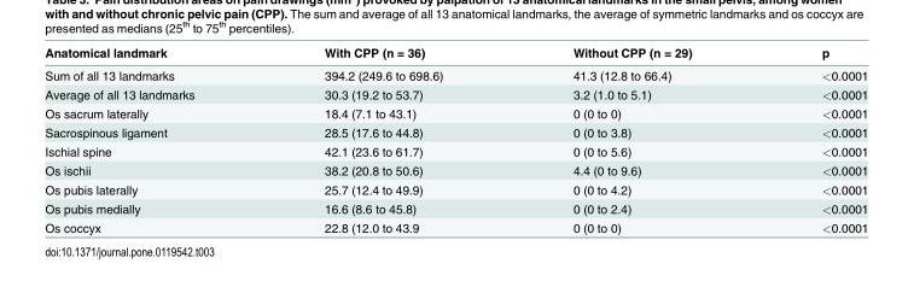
<table><thead><tr><td>Anatomical landmark</td><td>With CPP (n = 36)</td><td>Without CPP (n = 29)</td><td>p</td></tr></thead><tbody><tr><td>Sum of all 13 landmarks</td><td>394.2 (249.6 to 698.6)</td><td>41.3 (12.8 to 66.4)</td><td>&lt;0.0001</td></tr><tr><td>Average of all 13 landmarks</td><td>30.3 (19.2 to 53.7)</td><td>3.2 (1.0 to 5.1)</td><td>&lt;0.0001</td></tr><tr><td>Os sacrum laterally</td><td>18.4 (7.1 to 43.1)</td><td>0 (0 to 0)</td><td>&lt;0.0001</td></tr><tr><td>Sacrospinous ligament</td><td>28.5 (17.6 to 44.8)</td><td>0 (0 to 3.8)</td><td>&lt;0.0001</td></tr><tr><td>Ischial spine</td><td>42.1 (23.6 to 61.7)</td><td>0 (0 to 5.6)</td><td>&lt;0.0001</td></tr><tr><td>Os ischii</td><td>38.2 (20.8 to 50.6)</td><td>4.4 (0 to 9.6)</td><td>&lt;0.0001</td></tr><tr><td>Os pubis laterally</td><td>25.7 (12.4 to 49.9)</td><td>0 (0 to 4.2)</td><td>&lt;0.0001</td></tr><tr><td>Os pubis medially</td><td>16.6 (8.6 to 45.8)</td><td>0 (0 to 2.4)</td><td>&lt;0.0001</td></tr><tr><td>Os coccyx</td><td>22.8 (12.0 to 43.9</td><td>0 (0 to 0)</td><td>&lt;0.0001</td></tr></tbody></table>